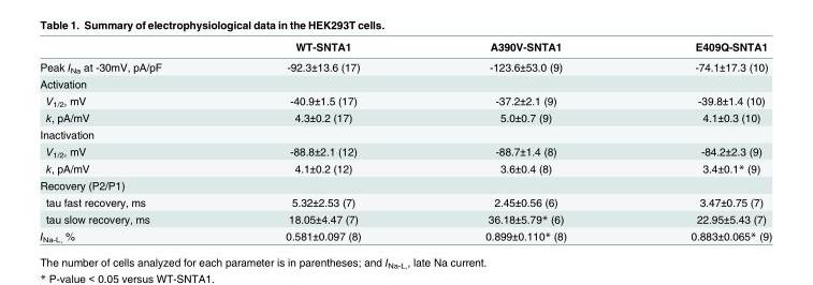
<table><thead><tr><td></td><td>WT-SNTA1</td><td>A390V-SNTA1</td><td>E409Q-SNTA1</td></tr></thead><tbody><tr><td>Peak I<sub>Na</sub> at -30mV, pA/pF</td><td>-92.3±13.6 (17)</td><td>-123.6±53.0 (9)</td><td>-74.1±17.3 (10)</td></tr><tr><td colspan="4">Activation</td></tr><tr><td>V<sub>1/2</sub>, mV</td><td>-40.9±1.5 (17)</td><td>-37.2±2.1 (9)</td><td>-39.8±1.4 (10)</td></tr><tr><td>k, pA/mV</td><td>4.3±0.2 (17)</td><td>5.0±0.7 (9)</td><td>4.1±0.3 (10)</td></tr><tr><td colspan="4">Inactivation</td></tr><tr><td>V<sub>1/2</sub>, mV</td><td>-88.8±2.1 (12)</td><td>-88.7±1.4 (8)</td><td>-84.2±2.3 (9)</td></tr><tr><td>k, pA/mV</td><td>4.1±0.2 (12)</td><td>3.6±0.4 (8)</td><td>3.4±0.1* (9)</td></tr><tr><td colspan="4">Recovery (P2/P1)</td></tr><tr><td>tau fast recovery, ms</td><td>5.32±2.53 (7)</td><td>2.45±0.56 (6)</td><td>3.47±0.75 (7)</td></tr><tr><td>tau slow recovery, ms</td><td>18.05±4.47 (7)</td><td>36.18±5.79* (6)</td><td>22.95±5.43 (7)</td></tr><tr><td>I<sub>Na-L,</sub> %</td><td>0.581±0.097 (8)</td><td>0.899±0.110* (8)</td><td>0.883±0.065* (9)</td></tr></tbody></table>